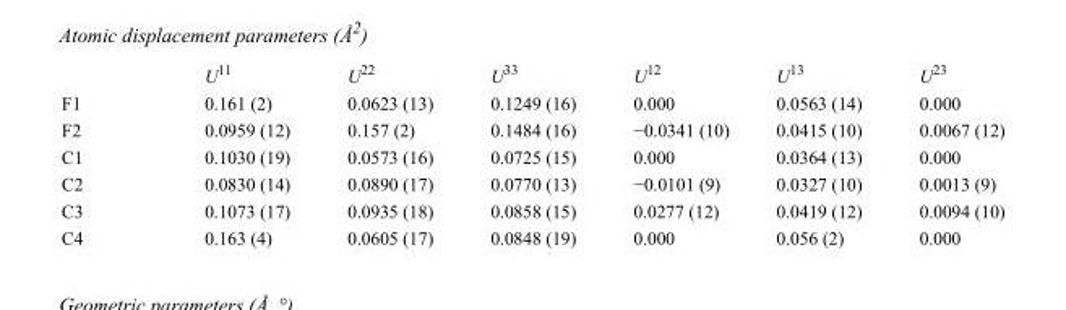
<table><thead><tr><td></td><td>U<sup>11</sup></td><td>U<sup>22</sup></td><td>U<sup>33</sup></td><td>U<sup>12</sup></td><td>U<sup>13</sup></td><td>U<sup>23</sup></td></tr></thead><tbody><tr><td>F1</td><td>0.161 (2)</td><td>0.0623 (13)</td><td>0.1249 (16)</td><td>0.000</td><td>0.0563 (14)</td><td>0.000</td></tr><tr><td>F2</td><td>0.0959 (12)</td><td>0.157 (2)</td><td>0.1484 (16)</td><td>−0.0341 (10)</td><td>0.0415 (10)</td><td>0.0067 (12)</td></tr><tr><td>C1</td><td>0.1030 (19)</td><td>0.0573 (16)</td><td>0.0725 (15)</td><td>0.000</td><td>0.0364 (13)</td><td>0.000</td></tr><tr><td>C2</td><td>0.0830 (14)</td><td>0.0890 (17)</td><td>0.0770 (13)</td><td>−0.0101 (9)</td><td>0.0327 (10)</td><td>0.0013 (9)</td></tr><tr><td>C3</td><td>0.1073 (17)</td><td>0.0935 (18)</td><td>0.0858 (15)</td><td>0.0277 (12)</td><td>0.0419 (12)</td><td>0.0094 (10)</td></tr><tr><td>C4</td><td>0.163 (4)</td><td>0.0605 (17)</td><td>0.0848 (19)</td><td>0.000</td><td>0.056 (2)</td><td>0.000</td></tr></tbody></table>